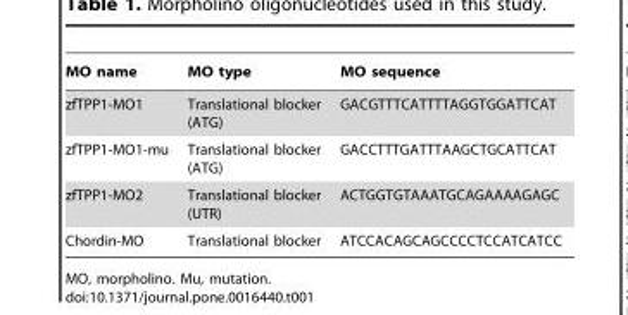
<table><thead><tr><td>MO name</td><td>MO type</td><td>MO sequence</td></tr></thead><tbody><tr><td>zfTPP1-MO1</td><td>Translational blocker (ATG)</td><td>GACGTTTCATTTTAGGTGGATTCAT</td></tr><tr><td>zfTPP1-MO1-mu</td><td>Translational blocker (ATG)</td><td>GACCTTTGATTTAAGCTGCATTCAT</td></tr><tr><td>zfTPP1-MO2</td><td>Translational blocker (UTR)</td><td>ACTGGTGTAAATGCAGAAAAGAGC</td></tr><tr><td>Chordin-MO</td><td>Translational blocker</td><td>ATCCACAGCAGCCCCTCCATCATCC</td></tr></tbody></table>